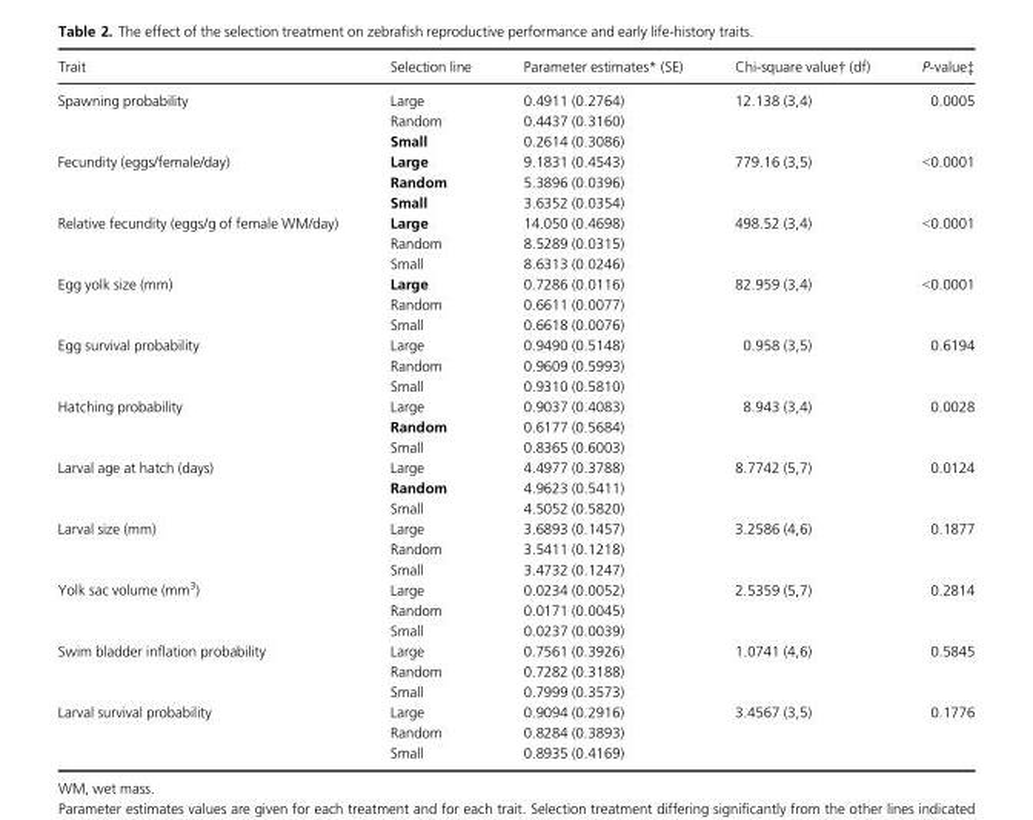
<table><thead><tr><td>Trait</td><td>Selection line</td><td>Parameter estimates* (SE)</td><td>Chi-square value† (df)</td><td>P-value‡</td></tr></thead><tbody><tr><td rowspan="3">Spawning probability</td><td>Large</td><td>0.4911 (0.2764)</td><td rowspan="3">12.138 (3,4)</td><td rowspan="3">0.0005</td></tr><tr><td>Random</td><td>0.4437 (0.3160)</td></tr><tr><td>Small</td><td>0.2614 (0.3086)</td></tr><tr><td rowspan="3">Fecundity (eggs/female/day)</td><td>Large</td><td>9.1831 (0.4543)</td><td rowspan="3">779.16 (3,5)</td><td rowspan="3">&lt;0.0001</td></tr><tr><td>Random</td><td>5.3896 (0.0396)</td></tr><tr><td>Small</td><td>3.6352 (0.0354)</td></tr><tr><td rowspan="3">Relative fecundity (eggs/g of female WM/day)</td><td>Large</td><td>14.050 (0.4698)</td><td rowspan="3">498.52 (3,4)</td><td rowspan="3">&lt;0.0001</td></tr><tr><td>Random</td><td>8.5289 (0.0315)</td></tr><tr><td>Small</td><td>8.6313 (0.0246)</td></tr><tr><td rowspan="3">Egg yolk size (mm)</td><td>Large</td><td>0.7286 (0.0116)</td><td rowspan="3">82.959 (3,4)</td><td rowspan="3">&lt;0.0001</td></tr><tr><td>Random</td><td>0.6611 (0.0077)</td></tr><tr><td>Small</td><td>0.6618 (0.0076)</td></tr><tr><td rowspan="3">Egg survival probability</td><td>Large</td><td>0.9490 (0.5148)</td><td rowspan="3">0.958 (3,5)</td><td rowspan="3">0.6194</td></tr><tr><td>Random</td><td>0.9609 (0.5993)</td></tr><tr><td>Small</td><td>0.9310 (0.5810)</td></tr><tr><td rowspan="3">Hatching probability</td><td>Large</td><td>0.9037 (0.4083)</td><td rowspan="3">8.943 (3,4)</td><td rowspan="3">0.0028</td></tr><tr><td>Random</td><td>0.6177 (0.5684)</td></tr><tr><td>Small</td><td>0.8365 (0.6003)</td></tr><tr><td rowspan="3">Larval age at hatch (days)</td><td>Large</td><td>4.4977 (0.3788)</td><td rowspan="3">8.7742 (5,7)</td><td rowspan="3">0.0124</td></tr><tr><td>Random</td><td>4.9623 (0.5411)</td></tr><tr><td>Small</td><td>4.5052 (0.5820)</td></tr><tr><td rowspan="3">Larval size (mm)</td><td>Large</td><td>3.6893 (0.1457)</td><td rowspan="3">3.2586 (4,6)</td><td rowspan="3">0.1877</td></tr><tr><td>Random</td><td>3.5411 (0.1218)</td></tr><tr><td>Small</td><td>3.4732 (0.1247)</td></tr><tr><td rowspan="3">Yolk sac volume (mm<sup>3</sup>)</td><td>Large</td><td>0.0234 (0.0052)</td><td rowspan="3">2.5359 (5,7)</td><td rowspan="3">0.2814</td></tr><tr><td>Random</td><td>0.0171 (0.0045)</td></tr><tr><td>Small</td><td>0.0237 (0.0039)</td></tr><tr><td rowspan="3">Swim bladder inflation probability</td><td>Large</td><td>0.7561 (0.3926)</td><td rowspan="3">1.0741 (4,6)</td><td rowspan="3">0.5845</td></tr><tr><td>Random</td><td>0.7282 (0.3188)</td></tr><tr><td>Small</td><td>0.7999 (0.3573)</td></tr><tr><td rowspan="3">Larval survival probability</td><td>Large</td><td>0.9094 (0.2916)</td><td rowspan="3">3.4567 (3,5)</td><td rowspan="3">0.1776</td></tr><tr><td>Random</td><td>0.8284 (0.3893)</td></tr><tr><td>Small</td><td>0.8935 (0.4169)</td></tr></tbody></table>